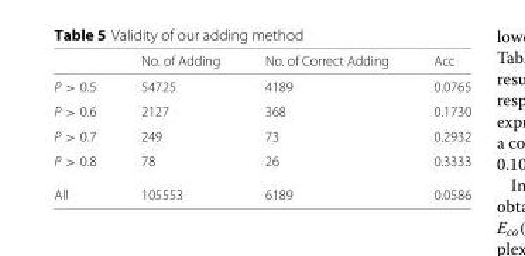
<table><thead><tr><td></td><td>No. of Adding</td><td>No. of Correct Adding</td><td>Acc</td></tr></thead><tbody><tr><td>P &gt; 0.5</td><td>54725</td><td>4189</td><td>0.0765</td></tr><tr><td>P &gt; 0.6</td><td>2127</td><td>368</td><td>0.1730</td></tr><tr><td>P &gt; 0.7</td><td>249</td><td>73</td><td>0.2932</td></tr><tr><td>P &gt; 0.8</td><td>78</td><td>26</td><td>0.3333</td></tr><tr><td>All</td><td>105553</td><td>6189</td><td>0.0586</td></tr></tbody></table>